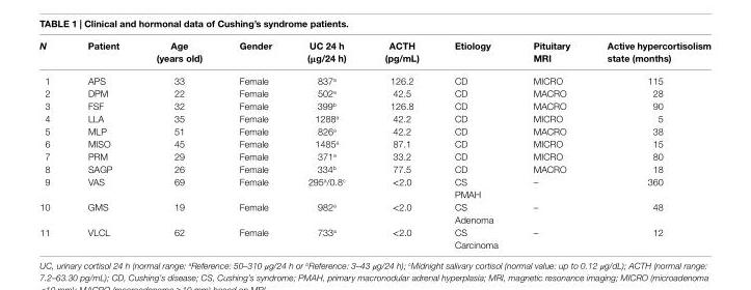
<table><thead><tr><td>N</td><td>Patient</td><td>age (years old)</td><td>gender</td><td>Uc 24 h (μg/24 h)</td><td>acTh (pg/ml)</td><td>etiology</td><td>Pituitary Mri</td><td>active hypercortisolism state (months)</td></tr></thead><tbody><tr><td>1</td><td>APS</td><td>33</td><td>Female</td><td>837<sup>a</sup></td><td>126.2</td><td>CD</td><td>MICRO</td><td>115</td></tr><tr><td>2</td><td>DPM</td><td>22</td><td>Female</td><td>502<sup>a</sup></td><td>42.5</td><td>CD</td><td>MACRO</td><td>28</td></tr><tr><td>3</td><td>FSF</td><td>32</td><td>Female</td><td>399<sup>b</sup></td><td>126.8</td><td>CD</td><td>MACRO</td><td>90</td></tr><tr><td>4</td><td>LLA</td><td>35</td><td>Female</td><td>1288<sup>a</sup></td><td>42.2</td><td>CD</td><td>MICRO</td><td>5</td></tr><tr><td>5</td><td>MLP</td><td>51</td><td>Female</td><td>826<sup>a</sup></td><td>42.2</td><td>CD</td><td>MACRO</td><td>38</td></tr><tr><td>6</td><td>MISO</td><td>45</td><td>Female</td><td>1485<sup>a</sup></td><td>87.1</td><td>CD</td><td>MICRO</td><td>15</td></tr><tr><td>7</td><td>PRM</td><td>29</td><td>Female</td><td>371<sup>a</sup></td><td>33.2</td><td>CD</td><td>MICRO</td><td>80</td></tr><tr><td>8</td><td>SAGP</td><td>26</td><td>Female</td><td>334<sup>b</sup></td><td>77.5</td><td>CD</td><td>MACRO</td><td>18</td></tr><tr><td rowspan="2">9</td><td rowspan="2">VAS</td><td rowspan="2">69</td><td rowspan="2">Female</td><td rowspan="2">295<sup>a</sup>/0.8<sup>c</sup></td><td rowspan="2">&lt;2.0</td><td>CS</td><td rowspan="2">–</td><td rowspan="2">360</td></tr><tr><td>PMAH</td></tr><tr><td rowspan="2">10</td><td rowspan="2">GMS</td><td rowspan="2">19</td><td rowspan="2">Female</td><td rowspan="2">982<sup>a</sup></td><td rowspan="2">&lt;2.0</td><td>CS</td><td rowspan="2">–</td><td rowspan="2">48</td></tr><tr><td>Adenoma</td></tr><tr><td rowspan="2">11</td><td rowspan="2">VLCL</td><td rowspan="2">62</td><td rowspan="2">Female</td><td rowspan="2">733<sup>a</sup></td><td rowspan="2">&lt;2.0</td><td>CS</td><td rowspan="2">–</td><td rowspan="2">12</td></tr><tr><td>Carcinoma</td></tr></tbody></table>